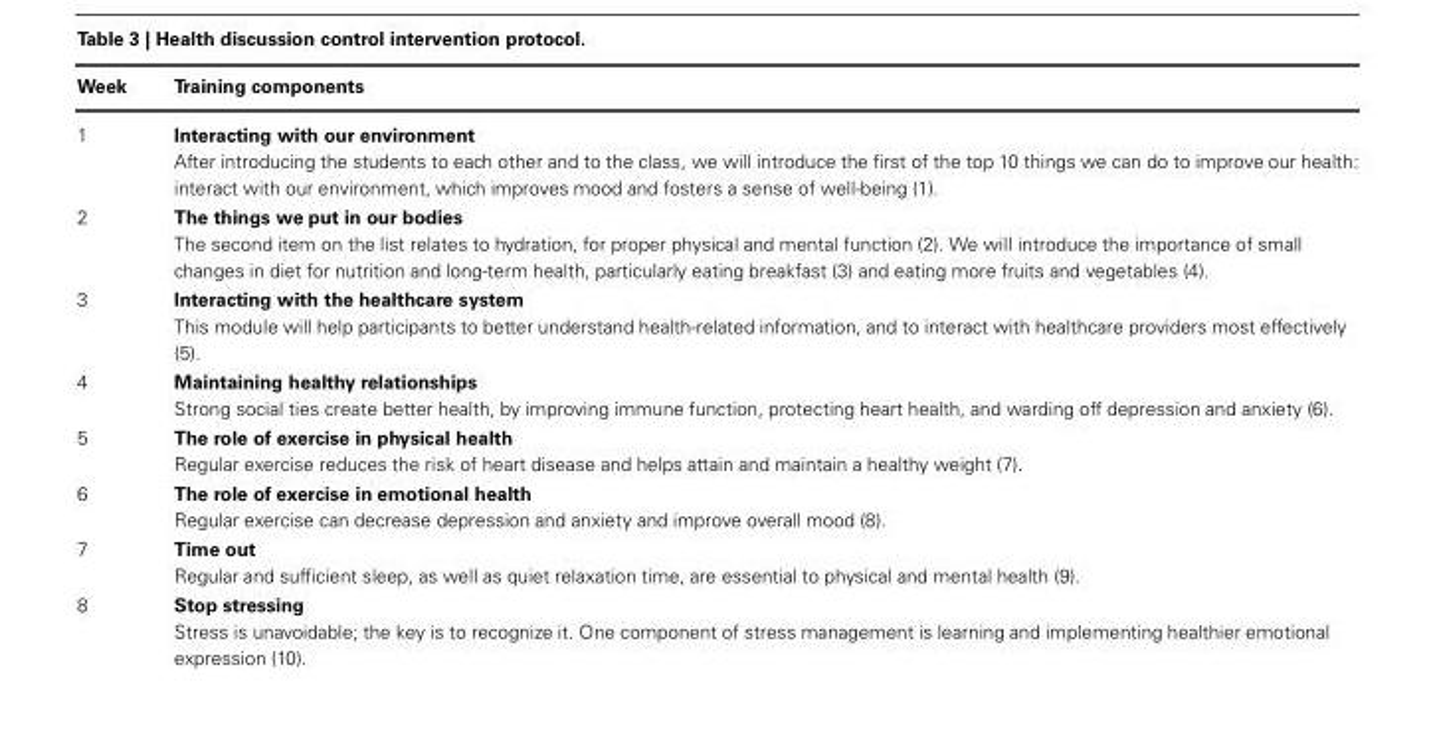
<table><thead><tr><td>Week</td><td>Training components</td></tr></thead><tbody><tr><td rowspan="2">1</td><td>Interacting with our environment</td></tr><tr><td>After introducing the students to each other and to the class, we will introduce the first of the top 10 things we can do to improve our health: interact with our environment, which improves mood and fosters a sense of well-being (1).</td></tr><tr><td rowspan="2">2</td><td>The things we put in our bodies</td></tr><tr><td>The second item on the list relates to hydration, for proper physical and mental function (2). We will introduce the importance of small changes in diet for nutrition and long-term health, particularly eating breakfast (3) and eating more fruits and vegetables (4).</td></tr><tr><td rowspan="2">3</td><td>Interacting with the healthcare system</td></tr><tr><td>This module will help participants to better understand health-related information, and to interact with healthcare providers most effectively (5).</td></tr><tr><td rowspan="2">4</td><td>Maintaining healthy relationships</td></tr><tr><td>Strong social ties create better health, by improving immune function, protecting heart health, and warding off depression and anxiety (6).</td></tr><tr><td rowspan="2">5</td><td>The role of exercise in physical health</td></tr><tr><td>Regular exercise reduces the risk of heart disease and helps attain and maintain a healthy weight (7).</td></tr><tr><td rowspan="2">6</td><td>The role of exercise in emotional health</td></tr><tr><td>Regular exercise can decrease depression and anxiety and improve overall mood (8).</td></tr><tr><td rowspan="2">7</td><td>Time out</td></tr><tr><td>Regular and sufficient sleep, as well as quiet relaxation time, are essential to physical and mental health (9).</td></tr><tr><td rowspan="2">8</td><td>Stop stressing</td></tr><tr><td>Stress is unavoidable; the key is to recognize it. One component of stress management is learning and implementing healthier emotional expression (10).</td></tr></tbody></table>